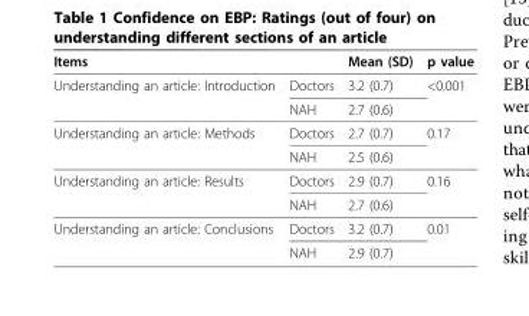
<table><thead><tr><td>Items</td><td></td><td>Mean (SD)</td><td>p value</td></tr></thead><tbody><tr><td rowspan="2">Understanding an article: Introduction</td><td>Doctors</td><td>3.2 (0.7)</td><td>&lt;0.001</td></tr><tr><td>NAH</td><td>2.7 (0.6)</td><td></td></tr><tr><td rowspan="2">Understanding an article: Methods</td><td>Doctors</td><td>2.7 (0.7)</td><td>0.17</td></tr><tr><td>NAH</td><td>2.5 (0.6)</td><td></td></tr><tr><td rowspan="2">Understanding an article: Results</td><td>Doctors</td><td>2.9 (0.7)</td><td>0.16</td></tr><tr><td>NAH</td><td>2.7 (0.6)</td><td></td></tr><tr><td rowspan="2">Understanding an article: Conclusions</td><td>Doctors</td><td>3.2 (0.7)</td><td>0.01</td></tr><tr><td>NAH</td><td>2.9 (0.7)</td><td></td></tr></tbody></table>